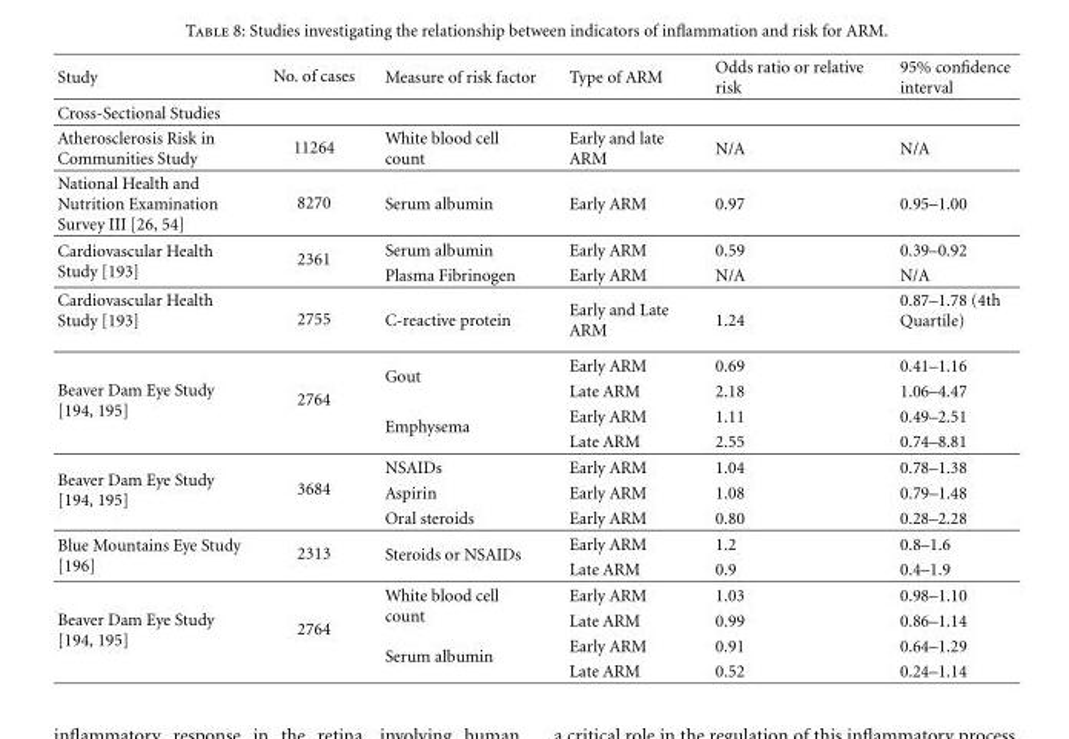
<table><thead><tr><td>Study</td><td>No. of cases</td><td>Measure of risk factor</td><td>Type of ARM</td><td>Odds ratio or relative risk</td><td>95% confidence interval</td></tr></thead><tbody><tr><td colspan="6">Cross-Sectional Studies</td></tr><tr><td>Atherosclerosis Risk in Communities Study</td><td>11264</td><td>White blood cell count</td><td>Early and late ARM</td><td>N/A</td><td>N/A</td></tr><tr><td>National Health and Nutrition Examination Survey III [26, 54]</td><td>8270</td><td>Serum albumin</td><td>Early ARM</td><td>0.97</td><td>0.95–1.00</td></tr><tr><td rowspan="2">Cardiovascular Health Study [193]</td><td rowspan="2">2361</td><td>Serum albumin</td><td>Early ARM</td><td>0.59</td><td>0.39–0.92</td></tr><tr><td>Plasma Fibrinogen</td><td>Early ARM</td><td>N/A</td><td>N/A</td></tr><tr><td>Cardiovascular Health Study [193]</td><td>2755</td><td>C-reactive protein</td><td>Early and Late ARM</td><td>1.24</td><td>0.87–1.78 (4th Quartile)</td></tr><tr><td rowspan="4">Beaver Dam Eye Study [194, 195]</td><td rowspan="4">2764</td><td rowspan="2">Gout</td><td>Early ARM</td><td>0.69</td><td>0.41–1.16</td></tr><tr><td>Late ARM</td><td>2.18</td><td>1.06–4.47</td></tr><tr><td rowspan="2">Emphysema</td><td>Early ARM</td><td>1.11</td><td>0.49–2.51</td></tr><tr><td>Late ARM</td><td>2.55</td><td>0.74–8.81</td></tr><tr><td rowspan="3">Beaver Dam Eye Study [194, 195]</td><td rowspan="3">3684</td><td>NSAIDs</td><td>Early ARM</td><td>1.04</td><td>0.78–1.38</td></tr><tr><td>Aspirin</td><td>Early ARM</td><td>1.08</td><td>0.79–1.48</td></tr><tr><td>Oral steroids</td><td>Early ARM</td><td>0.80</td><td>0.28–2.28</td></tr><tr><td rowspan="2">Blue Mountains Eye Study [196]</td><td rowspan="2">2313</td><td rowspan="2">Steroids or NSAIDs</td><td>Early ARM</td><td>1.2</td><td>0.8–1.6</td></tr><tr><td>Late ARM</td><td>0.9</td><td>0.4–1.9</td></tr><tr><td rowspan="4">Beaver Dam Eye Study [194, 195]</td><td rowspan="4">2764</td><td rowspan="2">White blood cell count</td><td>Early ARM</td><td>1.03</td><td>0.98–1.10</td></tr><tr><td>Late ARM</td><td>0.99</td><td>0.86–1.14</td></tr><tr><td rowspan="2">Serum albumin</td><td>Early ARM</td><td>0.91</td><td>0.64–1.29</td></tr><tr><td>Late ARM</td><td>0.52</td><td>0.24–1.14</td></tr></tbody></table>